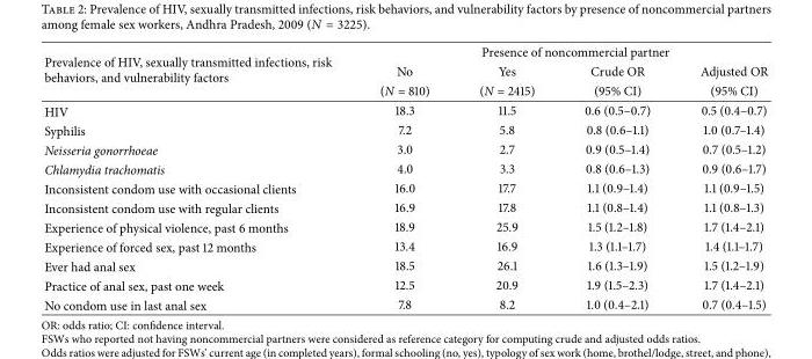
<table><thead><tr><td rowspan="3">Prevalence of HIV, sexually transmitted infections, risk behaviors, and vulnerability factors</td><td colspan="4">Presence of noncommercial partner</td></tr><tr><td rowspan="2">No (N = 810)</td><td rowspan="2">Yes (N = 2415)</td><td rowspan="2">Crude OR (95% CI)</td><td rowspan="2">Adjusted OR (95% CI)</td></tr><tr></tr></thead><tbody><tr><td>HIV</td><td>18.3</td><td>11.5</td><td>0.6 (0.5–0.7)</td><td>0.5 (0.4–0.7)</td></tr><tr><td>Syphilis</td><td>7.2</td><td>5.8</td><td>0.8 (0.6–1.1)</td><td>1.0 (0.7–1.4)</td></tr><tr><td>Neisseria gonorrhoeae</td><td>3.0</td><td>2.7</td><td>0.9 (0.5–1.4)</td><td>0.7 (0.5–1.2)</td></tr><tr><td>Chlamydia trachomatis</td><td>4.0</td><td>3.3</td><td>0.8 (0.6–1.3)</td><td>0.9 (0.6–1.7)</td></tr><tr><td>Inconsistent condom use with occasional clients</td><td>16.0</td><td>17.7</td><td>1.1 (0.9–1.4)</td><td>1.1 (0.9–1.5)</td></tr><tr><td>Inconsistent condom use with regular clients</td><td>16.9</td><td>17.8</td><td>1.1 (0.8–1.4)</td><td>1.1 (0.8–1.3)</td></tr><tr><td>Experience of physical violence, past 6 months</td><td>18.9</td><td>25.9</td><td>1.5 (1.2–1.8)</td><td>1.7 (1.4–2.1)</td></tr><tr><td>Experience of forced sex, past 12 months</td><td>13.4</td><td>16.9</td><td>1.3 (1.1–1.7)</td><td>1.4 (1.1–1.7)</td></tr><tr><td>Ever had anal sex</td><td>18.5</td><td>26.1</td><td>1.6 (1.3–1.9)</td><td>1.5 (1.2–1.9)</td></tr><tr><td>Practice of anal sex, past one week</td><td>12.5</td><td>20.9</td><td>1.9 (1.5–2.3)</td><td>1.7 (1.4–2.1)</td></tr><tr><td>No condom use in last anal sex</td><td>7.8</td><td>8.2</td><td>1.0 (0.4–2.1)</td><td>0.7 (0.4–1.5)</td></tr></tbody></table>